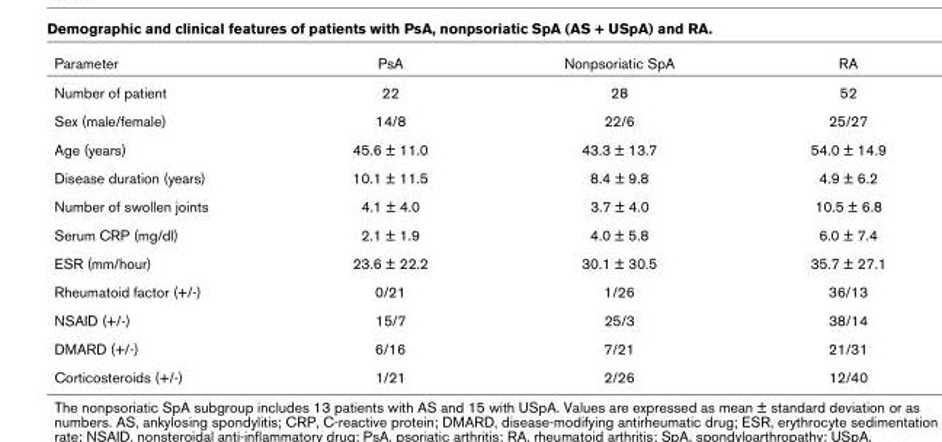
<table><thead><tr><td>Parameter</td><td>PsA</td><td>Nonpsoriatic SpA</td><td>RA</td></tr></thead><tbody><tr><td>Number of patient</td><td>22</td><td>28</td><td>52</td></tr><tr><td>Sex (male/female)</td><td>14/8</td><td>22/6</td><td>25/27</td></tr><tr><td>Age (years)</td><td>45.6 ± 11.0</td><td>43.3 ± 13.7</td><td>54.0 ± 14.9</td></tr><tr><td>Disease duration (years)</td><td>10.1 ± 11.5</td><td>8.4 ± 9.8</td><td>4.9 ± 6.2</td></tr><tr><td>Number of swollen joints</td><td>4.1 ± 4.0</td><td>3.7 ± 4.0</td><td>10.5 ± 6.8</td></tr><tr><td>Serum CRP (mg/dl)</td><td>2.1 ± 1.9</td><td>4.0 ± 5.8</td><td>6.0 ± 7.4</td></tr><tr><td>ESR (mm/hour)</td><td>23.6 ± 22.2</td><td>30.1 ± 30.5</td><td>35.7 ± 27.1</td></tr><tr><td>Rheumatoid factor (+/-)</td><td>0/21</td><td>1/26</td><td>36/13</td></tr><tr><td>NSAID (+/-)</td><td>15/7</td><td>25/3</td><td>38/14</td></tr><tr><td>DMARD (+/-)</td><td>6/16</td><td>7/21</td><td>21/31</td></tr><tr><td>Corticosteroids (+/-)</td><td>1/21</td><td>2/26</td><td>12/40</td></tr></tbody></table>